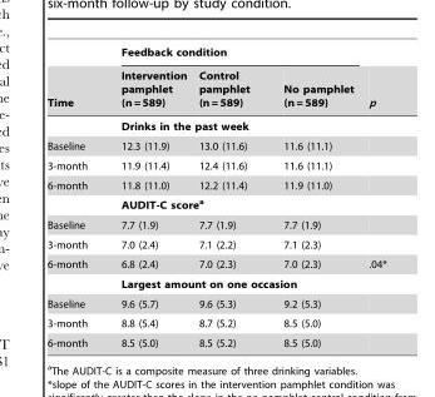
<table><thead><tr><td rowspan="2">Time</td><td colspan="3">Feedback condition</td><td rowspan="2">p</td></tr><tr><td>Intervention pamphlet (n = 589)</td><td>Control pamphlet (n = 589)</td><td>No pamphlet (n = 589)</td></tr></thead><tbody><tr><td></td><td colspan="3">Drinks in the past week</td><td></td></tr><tr><td>Baseline</td><td>12.3 (11.9)</td><td>13.0 (11.6)</td><td>11.6 (11.1)</td><td></td></tr><tr><td>3-month</td><td>11.9 (11.4)</td><td>12.4 (11.6)</td><td>11.6 (11.1)</td><td></td></tr><tr><td rowspan="2">6-month</td><td>11.8 (11.0)</td><td>12.2 (11.4)</td><td>11.9 (11.0)</td><td></td></tr><tr><td colspan="3">AUDIT-C scorea</td><td></td></tr><tr><td>Baseline</td><td>7.7 (1.9)</td><td>7.7 (1.9)</td><td>7.7 (1.9)</td><td></td></tr><tr><td>3-month</td><td>7.0 (2.4)</td><td>7.1 (2.2)</td><td>7.1 (2.3)</td><td></td></tr><tr><td rowspan="2">6-month</td><td>6.8 (2.4)</td><td>7.0 (2.3)</td><td>7.0 (2.3)</td><td>.04*</td></tr><tr><td colspan="3">Largest amount on one occasion</td><td></td></tr><tr><td>Baseline</td><td>9.6 (5.7)</td><td>9.6 (5.3)</td><td>9.2 (5.3)</td><td></td></tr><tr><td>3-month</td><td>8.8 (5.4)</td><td>8.7 (5.2)</td><td>8.5 (5.0)</td><td></td></tr><tr><td>6-month</td><td>8.5 (5.0)</td><td>8.5 (5.2)</td><td>8.5 (5.0)</td><td></td></tr></tbody></table>